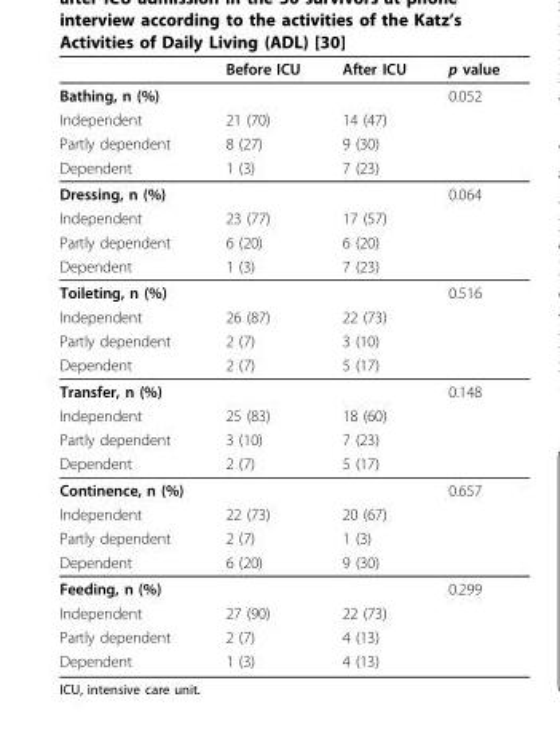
<table><thead><tr><td></td><td>Before ICU</td><td>After ICU</td><td>p value</td></tr></thead><tbody><tr><td>Bathing, n (%)</td><td></td><td></td><td>0.052</td></tr><tr><td>Independent</td><td>21 (70)</td><td>14 (47)</td><td></td></tr><tr><td>Partly dependent</td><td>8 (27)</td><td>9 (30)</td><td></td></tr><tr><td>Dependent</td><td>1 (3)</td><td>7 (23)</td><td></td></tr><tr><td>Dressing, n (%)</td><td></td><td></td><td>0.064</td></tr><tr><td>Independent</td><td>23 (77)</td><td>17 (57)</td><td></td></tr><tr><td>Partly dependent</td><td>6 (20)</td><td>6 (20)</td><td></td></tr><tr><td>Dependent</td><td>1 (3)</td><td>7 (23)</td><td></td></tr><tr><td>Toileting, n (%)</td><td></td><td></td><td>0.516</td></tr><tr><td>Independent</td><td>26 (87)</td><td>22 (73)</td><td></td></tr><tr><td>Partly dependent</td><td>2 (7)</td><td>3 (10)</td><td></td></tr><tr><td>Dependent</td><td>2 (7)</td><td>5 (17)</td><td></td></tr><tr><td>Transfer, n (%)</td><td></td><td></td><td>0.148</td></tr><tr><td>Independent</td><td>25 (83)</td><td>18 (60)</td><td></td></tr><tr><td>Partly dependent</td><td>3 (10)</td><td>7 (23)</td><td></td></tr><tr><td>Dependent</td><td>2 (7)</td><td>5 (17)</td><td></td></tr><tr><td>Continence, n (%)</td><td></td><td></td><td>0.657</td></tr><tr><td>Independent</td><td>22 (73)</td><td>20 (67)</td><td></td></tr><tr><td>Partly dependent</td><td>2 (7)</td><td>1 (3)</td><td></td></tr><tr><td>Dependent</td><td>6 (20)</td><td>9 (30)</td><td></td></tr><tr><td>Feeding, n (%)</td><td></td><td></td><td>0.299</td></tr><tr><td>Independent</td><td>27 (90)</td><td>22 (73)</td><td></td></tr><tr><td>Partly dependent</td><td>2 (7)</td><td>4 (13)</td><td></td></tr><tr><td>Dependent</td><td>1 (3)</td><td>4 (13)</td><td></td></tr></tbody></table>